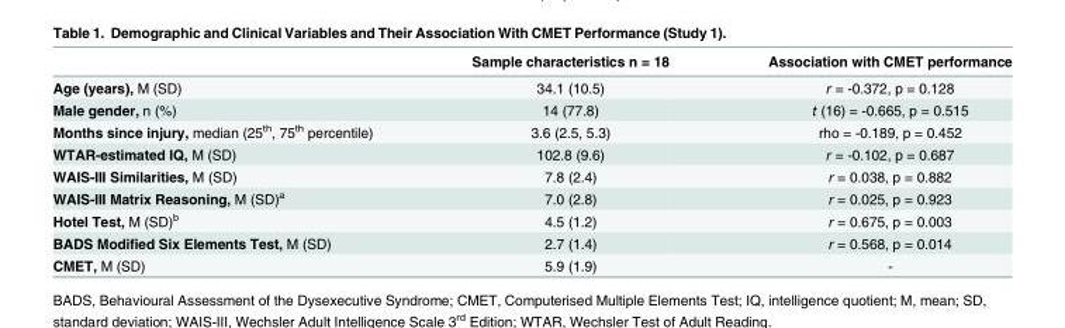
<table><thead><tr><td></td><td>Sample characteristics n = 18</td><td>Association with CMET performance</td></tr></thead><tbody><tr><td>Age (years), M (SD)</td><td>34.1 (10.5)</td><td>r = -0.372, p = 0.128</td></tr><tr><td>Male gender, n (%)</td><td>14 (77.8)</td><td>t (16) = -0.665, p = 0.515</td></tr><tr><td>Months since injury, median (25<sup>th</sup>, 75<sup>th</sup> percentile)</td><td>3.6 (2.5, 5.3)</td><td>rho = -0.189, p = 0.452</td></tr><tr><td>WTAR-estimated IQ, M (SD)</td><td>102.8 (9.6)</td><td>r = -0.102, p = 0.687</td></tr><tr><td>WAIS-III Similarities, M (SD)</td><td>7.8 (2.4)</td><td>r = 0.038, p = 0.882</td></tr><tr><td>WAIS-III Matrix Reasoning, M (SD)<sup>a</sup></td><td>7.0 (2.8)</td><td>r = 0.025, p = 0.923</td></tr><tr><td>Hotel Test, M (SD)<sup>b</sup></td><td>4.5 (1.2)</td><td>r = 0.675, p = 0.003</td></tr><tr><td>BADS Modified Six Elements Test, M (SD)</td><td>2.7 (1.4)</td><td>r = 0.568, p = 0.014</td></tr><tr><td>CMET, M (SD)</td><td>5.9 (1.9)</td><td>-</td></tr></tbody></table>